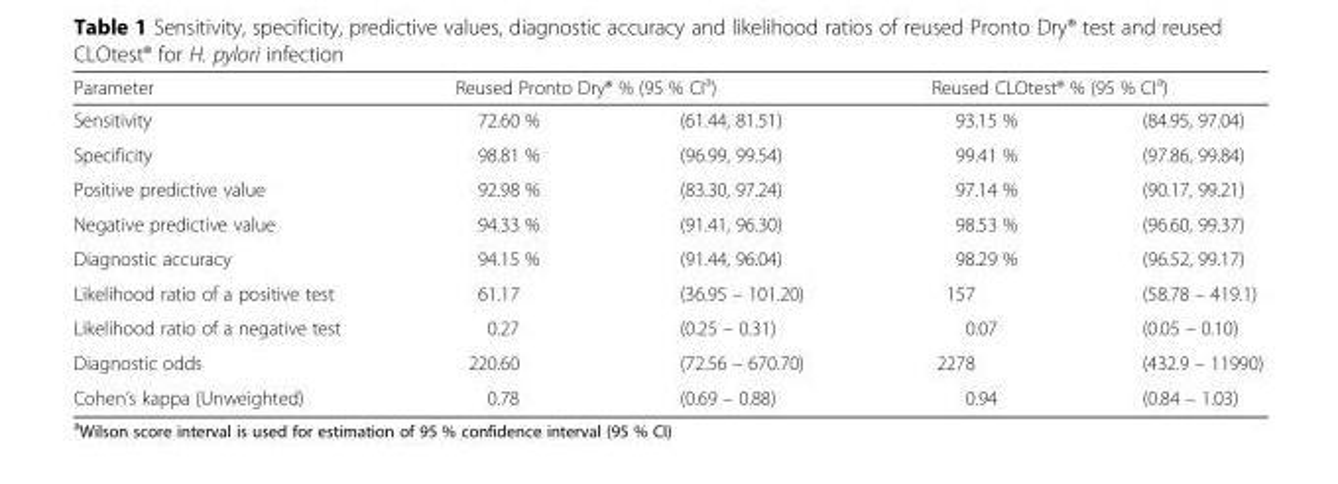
<table><thead><tr><td rowspan="2">Parameter Sensitivity</td><td colspan="2">Reused Pronto Dry® % (95 % CI<sup>a</sup>)</td><td colspan="2">Reused CLOtest® % (95 % CI<sup>a</sup>)</td></tr><tr><td>72.60 %</td><td>(61.44, 81.51)</td><td>93.15 %</td><td>(84.95, 97.04)</td></tr></thead><tbody><tr><td>Specificity</td><td>98.81 %</td><td>(96.99, 99.54)</td><td>99.41 %</td><td>(97.86, 99.84)</td></tr><tr><td>Positive predictive value</td><td>92.98 %</td><td>(83.30, 97.24)</td><td>97.14 %</td><td>(90.17, 99.21)</td></tr><tr><td>Negative predictive value</td><td>94.33 %</td><td>(91.41, 96.30)</td><td>98.53 %</td><td>(96.60, 99.37)</td></tr><tr><td>Diagnostic accuracy</td><td>94.15 %</td><td>(91.44, 96.04)</td><td>98.29 %</td><td>(96.52, 99.17)</td></tr><tr><td>Likelihood ratio of a positive test</td><td>61.17</td><td>(36.95 – 101.20)</td><td>157</td><td>(58.78 – 419.1)</td></tr><tr><td>Likelihood ratio of a negative test</td><td>0.27</td><td>(0.25 – 0.31)</td><td>0.07</td><td>(0.05 – 0.10)</td></tr><tr><td>Diagnostic odds</td><td>220.60</td><td>(72.56 – 670.70)</td><td>2278</td><td>(432.9 – 11990)</td></tr><tr><td>Cohen’s kappa (Unweighted)</td><td>0.78</td><td>(0.69 – 0.88)</td><td>0.94</td><td>(0.84 – 1.03)</td></tr></tbody></table>